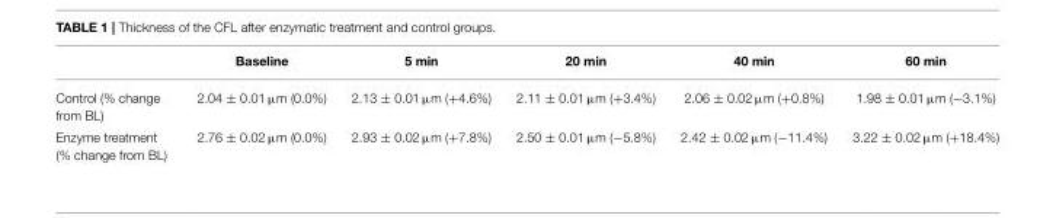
<table><thead><tr><td></td><td>Baseline</td><td>5 min</td><td>20 min</td><td>40 min</td><td>60 min</td></tr></thead><tbody><tr><td>Control (% change from BL)</td><td>2.04 ± 0.01 µm (0.0%)</td><td>2.13 ± 0.01 µm (+4.6%)</td><td>2.11 ± 0.01 µm (+3.4%)</td><td>2.06 ± 0.02 µm (+0.8%)</td><td>1.98 ± 0.01 µm (−3.1%)</td></tr><tr><td>Enzyme treatment (% change from BL)</td><td>2.76 ± 0.02 µm (0.0%)</td><td>2.93 ± 0.02 µm (+7.8%)</td><td>2.50 ± 0.01 µm (−5.8%)</td><td>2.42 ± 0.02 µm (−11.4%)</td><td>3.22 ± 0.02 µm (+18.4%)</td></tr></tbody></table>